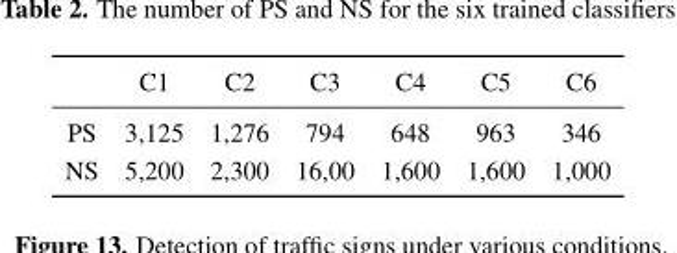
<table><thead><tr><td></td><td>C1</td><td>C2</td><td>C3</td><td>C4</td><td>C5</td><td>C6</td></tr></thead><tbody><tr><td>PS</td><td>3,125</td><td>1,276</td><td>794</td><td>648</td><td>963</td><td>346</td></tr><tr><td>NS</td><td>5,200</td><td>2,300</td><td>16,00</td><td>1,600</td><td>1,600</td><td>1,000</td></tr></tbody></table>